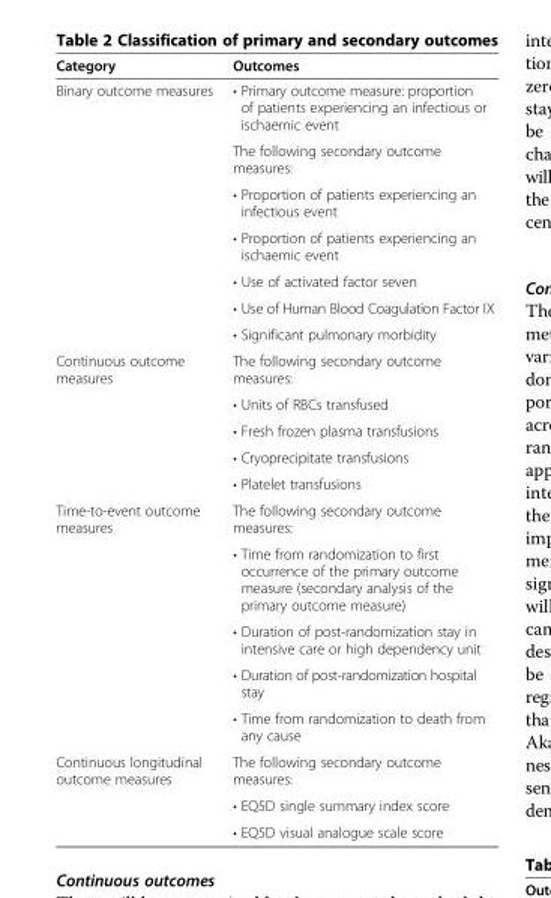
<table><thead><tr><td>Category</td><td>Outcomes</td></tr></thead><tbody><tr><td rowspan="7">Binary outcome measures</td><td>• Primary outcome measure: proportion of patients experiencing an infectious or ischaemic event</td></tr><tr><td>The following secondary outcome measures:</td></tr><tr><td>• Proportion of patients experiencing an infectious event</td></tr><tr><td>• Proportion of patients experiencing an ischaemic event</td></tr><tr><td>• Use of activated factor seven</td></tr><tr><td>• Use of Human Blood Coagulation Factor IX</td></tr><tr><td>• Significant pulmonary morbidity</td></tr><tr><td rowspan="5">Continuous outcome measures</td><td>The following secondary outcome measures:</td></tr><tr><td>• Units of RBCs transfused</td></tr><tr><td>• Fresh frozen plasma transfusions</td></tr><tr><td>• Cryoprecipitate transfusions</td></tr><tr><td>• Platelet transfusions</td></tr><tr><td rowspan="5">Time-to-event outcome measures</td><td>The following secondary outcome measures:</td></tr><tr><td>• Time from randomization to first occurrence of the primary outcome measure (secondary analysis of the primary outcome measure)</td></tr><tr><td>• Duration of post-randomization stay in intensive care or high dependency unit</td></tr><tr><td>• Duration of post-randomization hospital stay</td></tr><tr><td>• Time from randomization to death from any cause</td></tr><tr><td rowspan="3">Continuous longitudinal outcome measures</td><td>The following secondary outcome measures:</td></tr><tr><td>• EQ5D single summary index score</td></tr><tr><td>• EQ5D visual analogue scale score</td></tr></tbody></table>